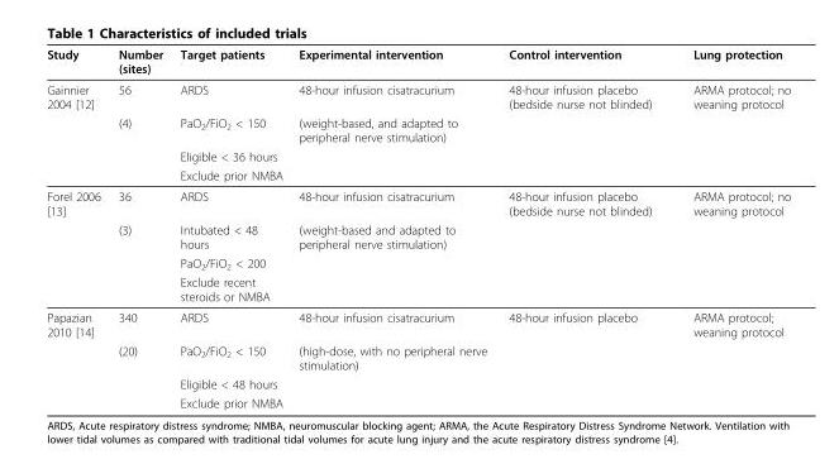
<table><thead><tr><td>Study</td><td>Number (sites)</td><td>Target patients</td><td>Experimental intervention</td><td>Control intervention</td><td>Lung protection</td></tr></thead><tbody><tr><td rowspan="4">Gainnier 2004 [12]</td><td>56</td><td>ARDS</td><td>48-hour infusion cisatracurium</td><td>48-hour infusion placebo (bedside nurse not blinded)</td><td>ARMA protocol; no weaning protocol</td></tr><tr><td>(4)</td><td>PaO<sub>2</sub>/FiO<sub>2</sub> &lt; 150</td><td>(weight-based, and adapted to peripheral nerve stimulation)</td><td></td><td></td></tr><tr><td></td><td>Eligible &lt; 36 hours</td><td></td><td></td><td></td></tr><tr><td></td><td>Exclude prior NMBA</td><td></td><td></td><td></td></tr><tr><td rowspan="4">Forel 2006 [13]</td><td>36</td><td>ARDS</td><td>48-hour infusion cisatracurium</td><td>48-hour infusion placebo (bedside nurse not blinded)</td><td>ARMA protocol; no weaning protocol</td></tr><tr><td>(3)</td><td>Intubated &lt; 48 hours</td><td>(weight-based and adapted to peripheral nerve stimulation)</td><td></td><td></td></tr><tr><td></td><td>PaO<sub>2</sub>/FiO<sub>2</sub> &lt; 200</td><td></td><td></td><td></td></tr><tr><td></td><td>Exclude recent steroids or NMBA</td><td></td><td></td><td></td></tr><tr><td rowspan="4">Papazian 2010 [14]</td><td>340</td><td>ARDS</td><td>48-hour infusion cisatracurium</td><td>48-hour infusion placebo</td><td>ARMA protocol; weaning protocol</td></tr><tr><td>(20)</td><td>PaO<sub>2</sub>/FiO<sub>2</sub> &lt; 150</td><td>(high-dose, with no peripheral nerve stimulation)</td><td></td><td></td></tr><tr><td></td><td>Eligible &lt; 48 hours</td><td></td><td></td><td></td></tr><tr><td></td><td>Exclude prior NMBA</td><td></td><td></td><td></td></tr></tbody></table>